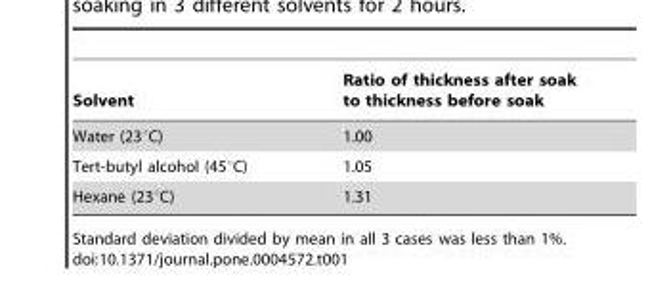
<table><thead><tr><td>Solvent</td><td>Ratio of thickness after soak to thickness before soak</td></tr></thead><tbody><tr><td>Water (23°C)</td><td>1.00</td></tr><tr><td>Tert-butyl alcohol (45°C)</td><td>1.05</td></tr><tr><td>Hexane (23°C)</td><td>1.31</td></tr></tbody></table>